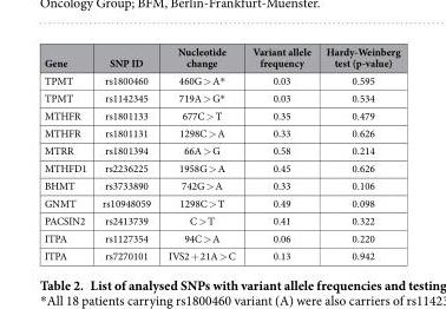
<table><thead><tr><td>Gene</td><td>SNP ID</td><td>Nucleotide change</td><td>Variant allele frequency</td><td>Hardy-Weinberg test (p-value)</td></tr></thead><tbody><tr><td>TPMT</td><td>rs1800460</td><td>460G &gt; A*</td><td>0.03</td><td>0.595</td></tr><tr><td>TPMT</td><td>rs1142345</td><td>719A &gt; G*</td><td>0.03</td><td>0.534</td></tr><tr><td>MTHFR</td><td>rs1801133</td><td>677C &gt; T</td><td>0.35</td><td>0.479</td></tr><tr><td>MTHFR</td><td>rs1801131</td><td>1298C &gt; A</td><td>0.33</td><td>0.626</td></tr><tr><td>MTRR</td><td>rs1801394</td><td>66A &gt; G</td><td>0.58</td><td>0.214</td></tr><tr><td>MTHFD1</td><td>rs2236225</td><td>1958G &gt; A</td><td>0.45</td><td>0.626</td></tr><tr><td>BHMT</td><td>rs3733890</td><td>742G &gt; A</td><td>0.33</td><td>0.106</td></tr><tr><td>GNMT</td><td>rs10948059</td><td>1298C &gt; T</td><td>0.49</td><td>0.098</td></tr><tr><td>PACSIN2</td><td>rs2413739</td><td>C &gt; T</td><td>0.41</td><td>0.322</td></tr><tr><td>ITPA</td><td>rs1127354</td><td>94C &gt; A</td><td>0.06</td><td>0.220</td></tr><tr><td>ITPA</td><td>rs7270101</td><td>IVS2 + 21A &gt; C</td><td>0.13</td><td>0.942</td></tr></tbody></table>